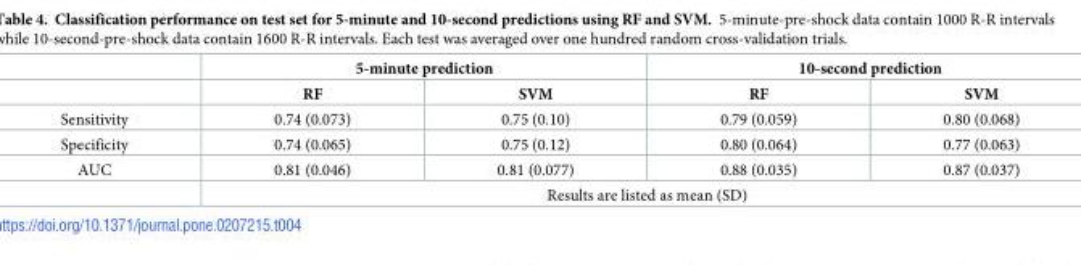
<table><thead><tr><td rowspan="2"></td><td colspan="2">5-minute prediction</td><td colspan="2">10-second prediction</td></tr><tr><td>RF</td><td>SVM</td><td>RF</td><td>SVM</td></tr></thead><tbody><tr><td>Sensitivity</td><td>0.74 (0.073)</td><td>0.75 (0.10)</td><td>0.79 (0.059)</td><td>0.80 (0.068)</td></tr><tr><td>Specificity</td><td>0.74 (0.065)</td><td>0.75 (0.12)</td><td>0.80 (0.064)</td><td>0.77 (0.063)</td></tr><tr><td rowspan="2">AUC</td><td>0.81 (0.046)</td><td>0.81 (0.077)</td><td>0.88 (0.035)</td><td>0.87 (0.037)</td></tr><tr><td colspan="4">Results are listed as mean (SD)</td></tr></tbody></table>